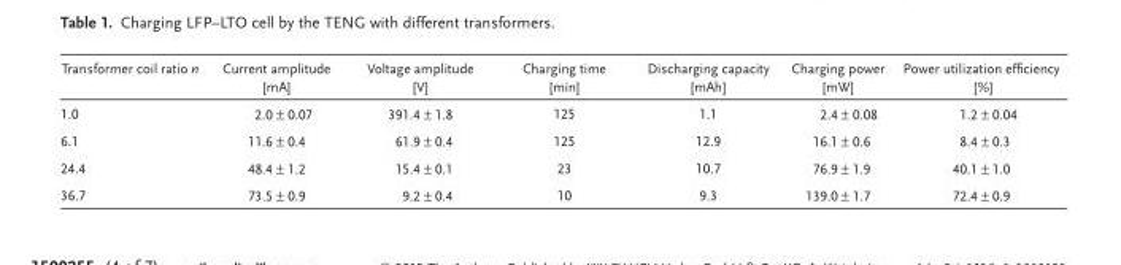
<table><thead><tr><td>Transformer coil ratio n</td><td>Current amplitude [mA]</td><td>Voltage amplitude [V]</td><td>Charging time [min]</td><td>Discharging capacity [mAh]</td><td>Charging power [mW]</td><td>Power utilization effi ciency [%]</td></tr></thead><tbody><tr><td>1.0</td><td>2.0 ± 0.07</td><td>391.4 ± 1.8</td><td>125</td><td>1.1</td><td>2.4 ± 0.08</td><td>1.2 ± 0.04</td></tr><tr><td>6.1</td><td>11.6 ± 0.4</td><td>61.9 ± 0.4</td><td>125</td><td>12.9</td><td>16.1 ± 0.6</td><td>8.4 ± 0.3</td></tr><tr><td>24.4</td><td>48.4 ± 1.2</td><td>15.4 ± 0.1</td><td>23</td><td>10.7</td><td>76.9 ± 1.9</td><td>40.1 ± 1.0</td></tr><tr><td>36.7</td><td>73.5 ± 0.9</td><td>9.2 ± 0.4</td><td>10</td><td>9.3</td><td>139.0 ± 1.7</td><td>72.4 ± 0.9</td></tr></tbody></table>